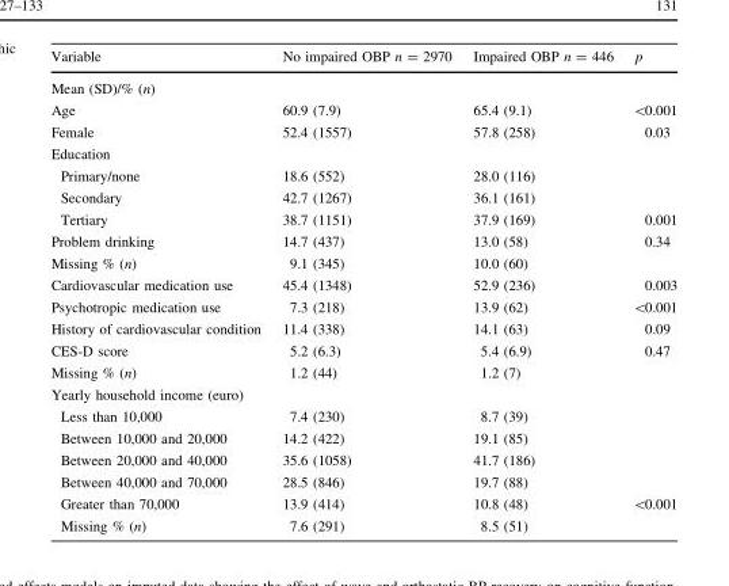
<table><thead><tr><td>Variable</td><td>No impaired OBP n = 2970</td><td>Impaired OBP n = 446</td><td>p</td></tr></thead><tbody><tr><td colspan="4">Mean (SD)/% (n)</td></tr><tr><td>Age</td><td>60.9 (7.9)</td><td>65.4 (9.1)</td><td>&lt;0.001</td></tr><tr><td>Female</td><td>52.4 (1557)</td><td>57.8 (258)</td><td>0.03</td></tr><tr><td colspan="4">Education</td></tr><tr><td>Primary/none</td><td>18.6 (552)</td><td>28.0 (116)</td><td></td></tr><tr><td>Secondary</td><td>42.7 (1267)</td><td>36.1 (161)</td><td></td></tr><tr><td>Tertiary</td><td>38.7 (1151)</td><td>37.9 (169)</td><td>0.001</td></tr><tr><td>Problem drinking</td><td>14.7 (437)</td><td>13.0 (58)</td><td>0.34</td></tr><tr><td>Missing % (n)</td><td>9.1 (345)</td><td>10.0 (60)</td><td></td></tr><tr><td>Cardiovascular medication use</td><td>45.4 (1348)</td><td>52.9 (236)</td><td>0.003</td></tr><tr><td>Psychotropic medication use</td><td>7.3 (218)</td><td>13.9 (62)</td><td>&lt;0.001</td></tr><tr><td>History of cardiovascular condition</td><td>11.4 (338)</td><td>14.1 (63)</td><td>0.09</td></tr><tr><td>CES-D score</td><td>5.2 (6.3)</td><td>5.4 (6.9)</td><td>0.47</td></tr><tr><td>Missing % (n)</td><td>1.2 (44)</td><td>1.2 (7)</td><td></td></tr><tr><td colspan="4">Yearly household income (euro)</td></tr><tr><td>Less than 10,000</td><td>7.4 (230)</td><td>8.7 (39)</td><td></td></tr><tr><td>Between 10,000 and 20,000</td><td>14.2 (422)</td><td>19.1 (85)</td><td></td></tr><tr><td>Between 20,000 and 40,000</td><td>35.6 (1058)</td><td>41.7 (186)</td><td></td></tr><tr><td>Between 40,000 and 70,000</td><td>28.5 (846)</td><td>19.7 (88)</td><td></td></tr><tr><td>Greater than 70,000</td><td>13.9 (414)</td><td>10.8 (48)</td><td>&lt;0.001</td></tr><tr><td>Missing % (n)</td><td>7.6 (291)</td><td>8.5 (51)</td><td></td></tr></tbody></table>